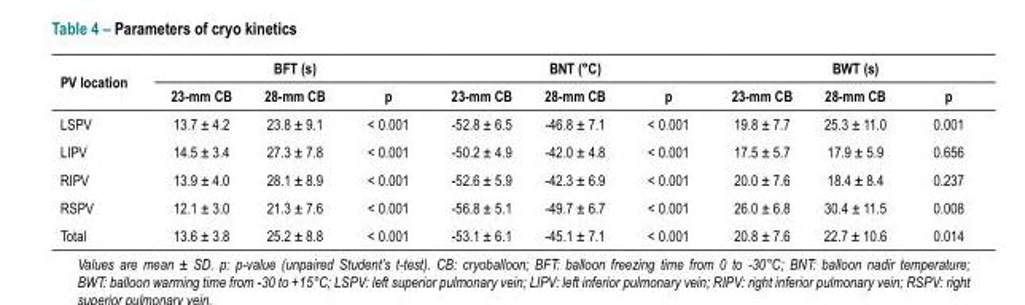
<table><thead><tr><td rowspan="2">PV location</td><td colspan="3">BFT (s)</td><td colspan="3">BNT (°C)</td><td colspan="3">BWT (s)</td></tr><tr><td>23-mm CB</td><td>28-mm CB</td><td>p</td><td>23-mm CB</td><td>28-mm CB</td><td>p</td><td>23-mm CB</td><td>28-mm CB</td><td>p</td></tr></thead><tbody><tr><td>LSPV</td><td>13.7 ± 4.2</td><td>23.8 ± 9.1</td><td>&lt; 0.001</td><td>-52.8 ± 6.5</td><td>-46.8 ± 7.1</td><td>&lt; 0.001</td><td>19.8 ± 7.7</td><td>25.3 ± 11.0</td><td>0.001</td></tr><tr><td>LIPV</td><td>14.5 ± 3.4</td><td>27.3 ± 7.8</td><td>&lt; 0.001</td><td>-50.2 ± 4.9</td><td>-42.0 ± 4.8</td><td>&lt; 0.001</td><td>17.5 ± 5.7</td><td>17.9 ± 5.9</td><td>0.656</td></tr><tr><td>RIPV</td><td>13.9 ± 4.0</td><td>28.1 ± 8.9</td><td>&lt; 0.001</td><td>-52.6 ± 5.9</td><td>-42.3 ± 6.9</td><td>&lt; 0.001</td><td>20.0 ± 7.6</td><td>18.4 ± 8.4</td><td>0.237</td></tr><tr><td>RSPV</td><td>12.1 ± 3.0</td><td>21.3 ± 7.6</td><td>&lt; 0.001</td><td>-56.8 ± 5.1</td><td>-49.7 ± 6.7</td><td>&lt; 0.001</td><td>26.0 ± 6.8</td><td>30.4 ± 11.5</td><td>0.008</td></tr><tr><td>Total</td><td>13.6 ± 3.8</td><td>25.2 ± 8.8</td><td>&lt; 0.001</td><td>-53.1 ± 6.1</td><td>-45.1 ± 7.1</td><td>&lt; 0.001</td><td>20.8 ± 7.6</td><td>22.7 ± 10.6</td><td>0.014</td></tr></tbody></table>